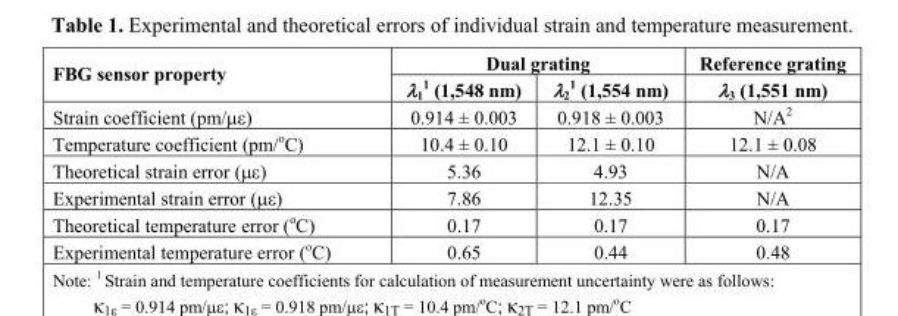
<table><thead><tr><td rowspan="2">FBG sensor property</td><td colspan="2">Dual grating</td><td rowspan="2">Reference grating λ<sub>3</sub> (1,551 nm)</td></tr><tr><td>λ<sub>1</sub> <sup>1</sup> (1,548 nm)</td><td>λ<sub>2</sub> <sup>1</sup> (1,554 nm)</td></tr></thead><tbody><tr><td>Strain coefficient (pm/με)</td><td>0.914 ± 0.003</td><td>0.918 ± 0.003</td><td>N/A<sup>2</sup></td></tr><tr><td>Temperature coefficient (pm/°C)</td><td>10.4 ± 0.10</td><td>12.1 ± 0.10</td><td>12.1 ± 0.08</td></tr><tr><td>Theoretical strain error (με)</td><td>5.36</td><td>4.93</td><td>N/A</td></tr><tr><td>Experimental strain error (με)</td><td>7.86</td><td>12.35</td><td>N/A</td></tr><tr><td>Theoretical temperature error (°C)</td><td>0.17</td><td>0.17</td><td>0.17</td></tr><tr><td>Experimental temperature error (°C)</td><td>0.65</td><td>0.44</td><td>0.48</td></tr></tbody></table>